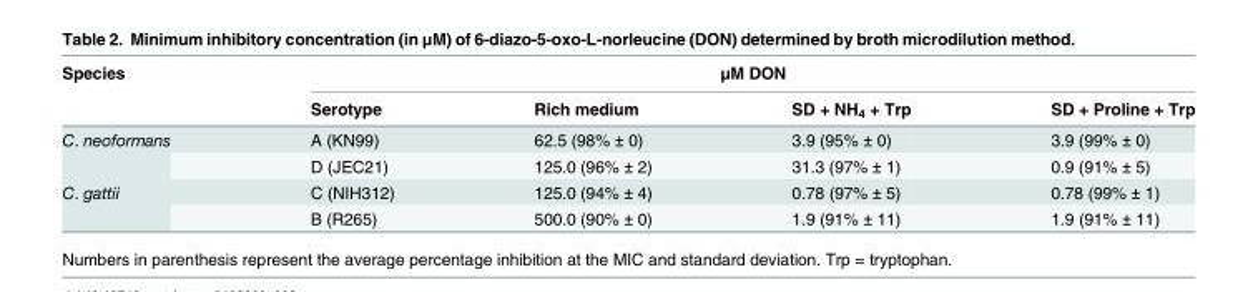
<table><thead><tr><td rowspan="2">Species</td><td colspan="4">μM DON</td></tr><tr><td>Serotype</td><td>Rich medium</td><td>SD + NH<sub>4</sub> + Trp</td><td>SD + Proline + Trp</td></tr></thead><tbody><tr><td rowspan="2">C. neoformans</td><td>A (KN99)</td><td>62.5 (98% ± 0)</td><td>3.9 (95% ± 0)</td><td>3.9 (99% ± 0)</td></tr><tr><td>D (JEC21)</td><td>125.0 (96% ± 2)</td><td>31.3 (97% ± 1)</td><td>0.9 (91% ± 5)</td></tr><tr><td rowspan="2">C. gattii</td><td>C (NIH312)</td><td>125.0 (94% ± 4)</td><td>0.78 (97% ± 5)</td><td>0.78 (99% ± 1)</td></tr><tr><td>B (R265)</td><td>500.0 (90% ± 0)</td><td>1.9 (91% ± 11)</td><td>1.9 (91% ± 11)</td></tr></tbody></table>